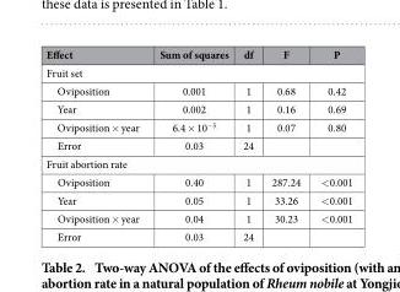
<table><thead><tr><td>Effect</td><td>Sum of squares</td><td>df</td><td>F</td><td>P</td></tr></thead><tbody><tr><td colspan="5">Fruit set</td></tr><tr><td>Oviposition</td><td>0.001</td><td>1</td><td>0.68</td><td>0.42</td></tr><tr><td>Year</td><td>0.002</td><td>1</td><td>0.16</td><td>0.69</td></tr><tr><td>Oviposition × year</td><td>6.4 × 10<sup>−5</sup></td><td>1</td><td>0.07</td><td>0.80</td></tr><tr><td>Error</td><td>0.03</td><td>24</td><td></td><td></td></tr><tr><td colspan="5">Fruit abortion rate</td></tr><tr><td>Oviposition</td><td>0.40</td><td>1</td><td>287.24</td><td>&lt; 0.001</td></tr><tr><td>Year</td><td>0.05</td><td>1</td><td>33.26</td><td>&lt; 0.001</td></tr><tr><td>Oviposition × year</td><td>0.04</td><td>1</td><td>30.23</td><td>&lt; 0.001</td></tr><tr><td>Error</td><td>0.03</td><td>24</td><td></td><td></td></tr></tbody></table>